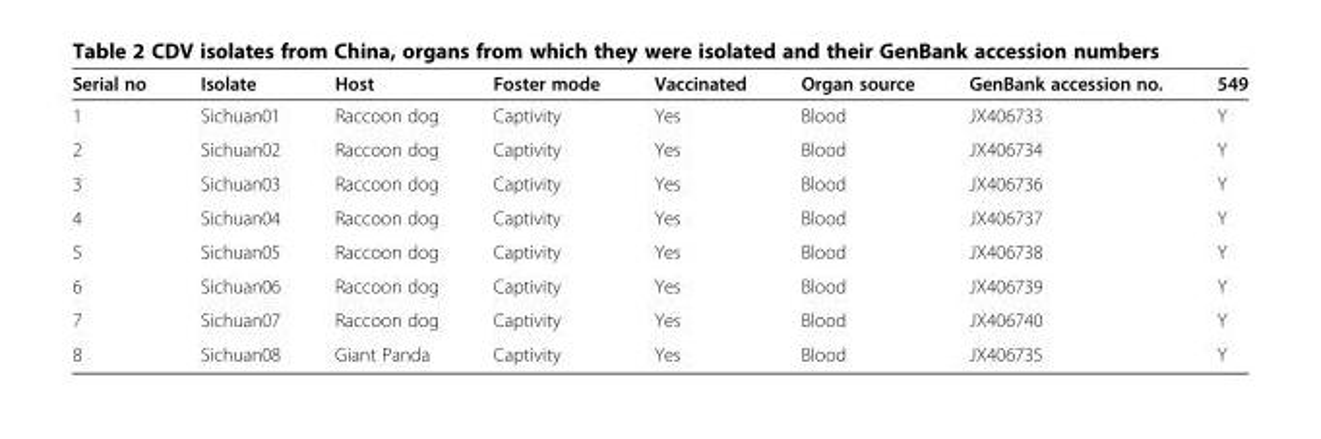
<table><thead><tr><td>Serial no</td><td>Isolate</td><td>Host</td><td>Foster mode</td><td>Vaccinated</td><td>Organ source</td><td>GenBank accession no.</td><td>549</td></tr></thead><tbody><tr><td>1</td><td>Sichuan01</td><td>Raccoon dog</td><td>Captivity</td><td>Yes</td><td>Blood</td><td>JX406733</td><td>Y</td></tr><tr><td>2</td><td>Sichuan02</td><td>Raccoon dog</td><td>Captivity</td><td>Yes</td><td>Blood</td><td>JX406734</td><td>Y</td></tr><tr><td>3</td><td>Sichuan03</td><td>Raccoon dog</td><td>Captivity</td><td>Yes</td><td>Blood</td><td>JX406736</td><td>Y</td></tr><tr><td>4</td><td>Sichuan04</td><td>Raccoon dog</td><td>Captivity</td><td>Yes</td><td>Blood</td><td>JX406737</td><td>Y</td></tr><tr><td>5</td><td>Sichuan05</td><td>Raccoon dog</td><td>Captivity</td><td>Yes</td><td>Blood</td><td>JX406738</td><td>Y</td></tr><tr><td>6</td><td>Sichuan06</td><td>Raccoon dog</td><td>Captivity</td><td>Yes</td><td>Blood</td><td>JX406739</td><td>Y</td></tr><tr><td>7</td><td>Sichuan07</td><td>Raccoon dog</td><td>Captivity</td><td>Yes</td><td>Blood</td><td>JX406740</td><td>Y</td></tr><tr><td>8</td><td>Sichuan08</td><td>Giant Panda</td><td>Captivity</td><td>Yes</td><td>Blood</td><td>JX406735</td><td>Y</td></tr></tbody></table>